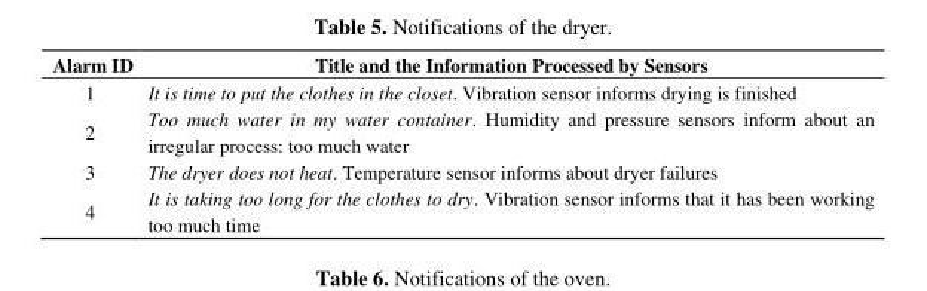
<table><thead><tr><td>Alarm ID</td><td>Title and the Information Processed by Sensors</td></tr></thead><tbody><tr><td>1</td><td>It is time to put the clothes in the closet. Vibration sensor informs drying is finished</td></tr><tr><td>2</td><td>Too much water in my water container. Humidity and pressure sensors inform about an irregular process: too much water</td></tr><tr><td>3</td><td>The dryer does not heat. Temperature sensor informs about dryer failures</td></tr><tr><td>4</td><td>It is taking too long for the clothes to dry. Vibration sensor informs that it has been working too much time</td></tr></tbody></table>